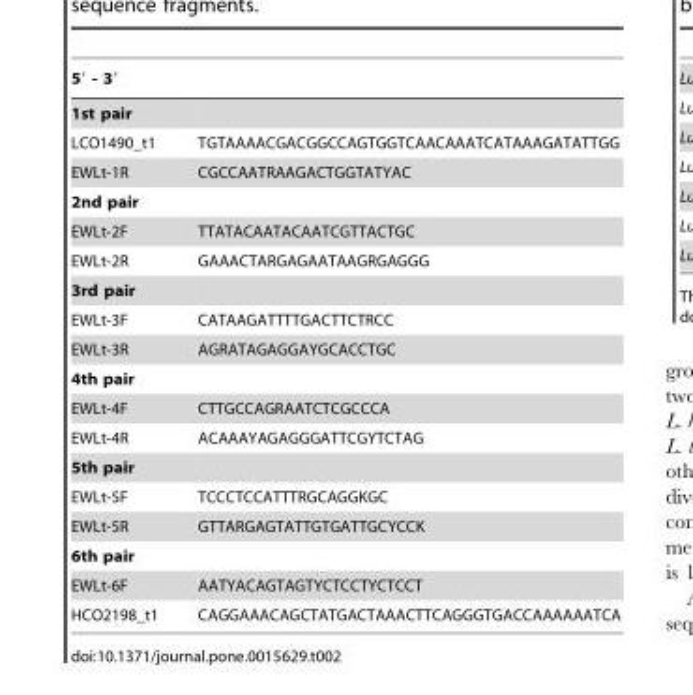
<table><thead><tr><td colspan="2">5′ - 3′</td></tr><tr><td>1st pair</td><td></td></tr></thead><tbody><tr><td>LCO1490_t1</td><td>TGTAAAACGACGGCCAGTGGTCAACAAATCATAAAGATATTGG</td></tr><tr><td>EWLt-1R</td><td>CGCCAATRAAGACTGGTATYAC</td></tr><tr><td colspan="2">2nd pair</td></tr><tr><td>EWLt-2F</td><td>TTATACAATACAATCGTTACTGC</td></tr><tr><td>EWLt-2R</td><td>GAAACTARGAGAATAAGRGAGGG</td></tr><tr><td colspan="2">3rd pair</td></tr><tr><td>EWLt-3F</td><td>CATAAGATTTTGACTTCTRCC</td></tr><tr><td>EWLt-3R</td><td>AGRATAGAGGAYGCACCTGC</td></tr><tr><td colspan="2">4th pair</td></tr><tr><td>EWLt-4F</td><td>CTTGCCAGRAATCTCGCCCA</td></tr><tr><td>EWLt-4R</td><td>ACAAAYAGAGGGATTCGYTCTAG</td></tr><tr><td colspan="2">5th pair</td></tr><tr><td>EWLt-5F</td><td>TCCCTCCATTTRGCAGGKGC</td></tr><tr><td>EWLt-5R</td><td>GTTARGAGTATTGTGATTGCYCCK</td></tr><tr><td colspan="2">6th pair</td></tr><tr><td>EWLt-6F</td><td>AATYACAGTAGTYCTCCTYCTCCT</td></tr><tr><td>HCO2198_t1</td><td>CAGGAAACAGCTATGACTAAACTTCAGGGTGACCAAAAAATCA</td></tr></tbody></table>